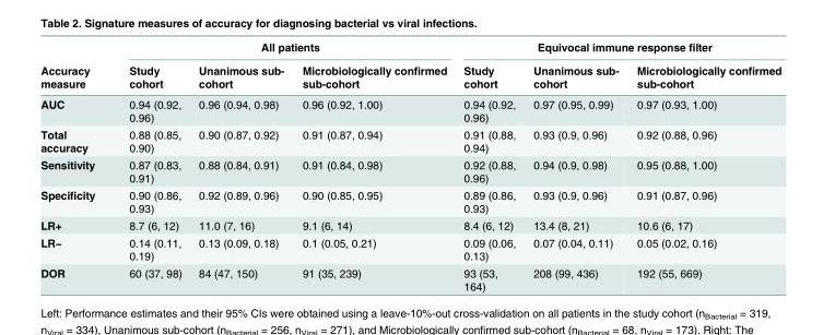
<table><thead><tr><td rowspan="2">Accuracy measure</td><td colspan="3">All patients</td><td colspan="3">Equivocal immune response filter</td></tr><tr><td>Study cohort</td><td>Unanimous sub- cohort</td><td>Microbiologically confirmed sub-cohort</td><td>Study cohort</td><td>Unanimous sub- cohort</td><td>Microbiologically confirmed sub-cohort</td></tr></thead><tbody><tr><td>AUC</td><td>0.94 (0.92, 0.96)</td><td>0.96 (0.94, 0.98)</td><td>0.96 (0.92, 1.00)</td><td>0.94 (0.92, 0.96)</td><td>0.97 (0.95, 0.99)</td><td>0.97 (0.93, 1.00)</td></tr><tr><td>Total accuracy</td><td>0.88 (0.85, 0.90)</td><td>0.90 (0.87, 0.92)</td><td>0.91 (0.87, 0.94)</td><td>0.91 (0.88, 0.94)</td><td>0.93 (0.9, 0.96)</td><td>0.92 (0.88, 0.96)</td></tr><tr><td>Sensitivity</td><td>0.87 (0.83, 0.91)</td><td>0.88 (0.84, 0.91)</td><td>0.91 (0.84, 0.98)</td><td>0.92 (0.88, 0.96)</td><td>0.94 (0.9, 0.98)</td><td>0.95 (0.88, 1.00)</td></tr><tr><td>Specificity</td><td>0.90 (0.86, 0.93)</td><td>0.92 (0.89, 0.96)</td><td>0.90 (0.85, 0.95)</td><td>0.89 (0.86, 0.93)</td><td>0.93 (0.9, 0.96)</td><td>0.91 (0.87, 0.96)</td></tr><tr><td>LR+</td><td>8.7 (6, 12)</td><td>11.0 (7, 16)</td><td>9.1 (6, 14)</td><td>8.4 (6, 12)</td><td>13.4 (8, 21)</td><td>10.6 (6, 17)</td></tr><tr><td>LR−</td><td>0.14 (0.11, 0.19)</td><td>0.13 (0.09, 0.18)</td><td>0.1 (0.05, 0.21)</td><td>0.09 (0.06, 0.13)</td><td>0.07 (0.04, 0.11)</td><td>0.05 (0.02, 0.16)</td></tr><tr><td>DOR</td><td>60 (37, 98)</td><td>84 (47, 150)</td><td>91 (35, 239)</td><td>93 (53, 164)</td><td>208 (99, 436)</td><td>192 (55, 669)</td></tr></tbody></table>